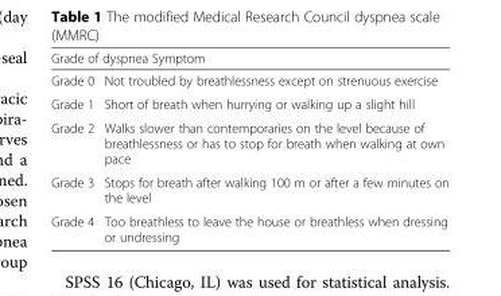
<table><thead><tr><td colspan="2">Grade of dyspnea Symptom</td></tr><tr><td>Grade 0</td><td>Not troubled by breathlessness except on strenuous exercise</td></tr></thead><tbody><tr><td>Grade 1</td><td>Short of breath when hurrying or walking up a slight hill</td></tr><tr><td>Grade 2</td><td>Walks slower than contemporaries on the level because of breathlessness or has to stop for breath when walking at own pace</td></tr><tr><td>Grade 3</td><td>Stops for breath after walking 100 m or after a few minutes on the level</td></tr><tr><td>Grade 4</td><td>Too breathless to leave the house or breathless when dressing or undressing</td></tr></tbody></table>